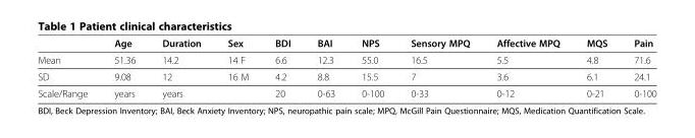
<table><thead><tr><td></td><td>Age</td><td>Duration</td><td>Sex</td><td>BDI</td><td>BAI</td><td>NPS</td><td>Sensory MPQ</td><td>Affective MPQ</td><td>MQS</td><td>Pain</td></tr></thead><tbody><tr><td>Mean</td><td>51.36</td><td>14.2</td><td>14 F</td><td>6.6</td><td>12.3</td><td>55.0</td><td>16.5</td><td>5.5</td><td>4.8</td><td>71.6</td></tr><tr><td>SD</td><td>9.08</td><td>12</td><td>16 M</td><td>4.2</td><td>8.8</td><td>15.5</td><td>7</td><td>3.6</td><td>6.1</td><td>24.1</td></tr><tr><td>Scale/Range</td><td>years</td><td>years</td><td></td><td>20</td><td>0-63</td><td>0-100</td><td>0-33</td><td>0-12</td><td>0-21</td><td>0-100</td></tr></tbody></table>